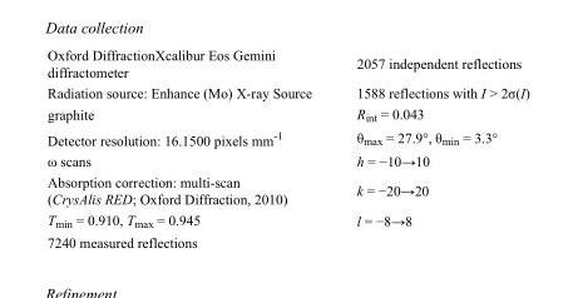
<table><tbody><tr><td>Oxford DiffractionXcalibur Eos Gemini diffractometer</td><td>2057 independent reflections</td></tr><tr><td>Radiation source: Enhance (Mo) X-ray Source</td><td>1588 reflections with I &gt; 2σ(I)</td></tr><tr><td>graphite</td><td>R<sub>int</sub> = 0.043</td></tr><tr><td>Detector resolution: 16.1500 pixels mm<sup>-1</sup></td><td>θ<sub>max</sub> = 27.9°, θ<sub>min</sub> = 3.3°</td></tr><tr><td>ω scans</td><td>h = −10→10</td></tr><tr><td>Absorption correction: multi-scan (CrysAlis RED; Oxford Diffraction, 2010)</td><td>k = −20→20</td></tr><tr><td>T<sub>min</sub> = 0.910, T<sub>max</sub> = 0.945</td><td>l = −8→8</td></tr><tr><td>7240 measured reflections</td><td></td></tr></tbody></table>